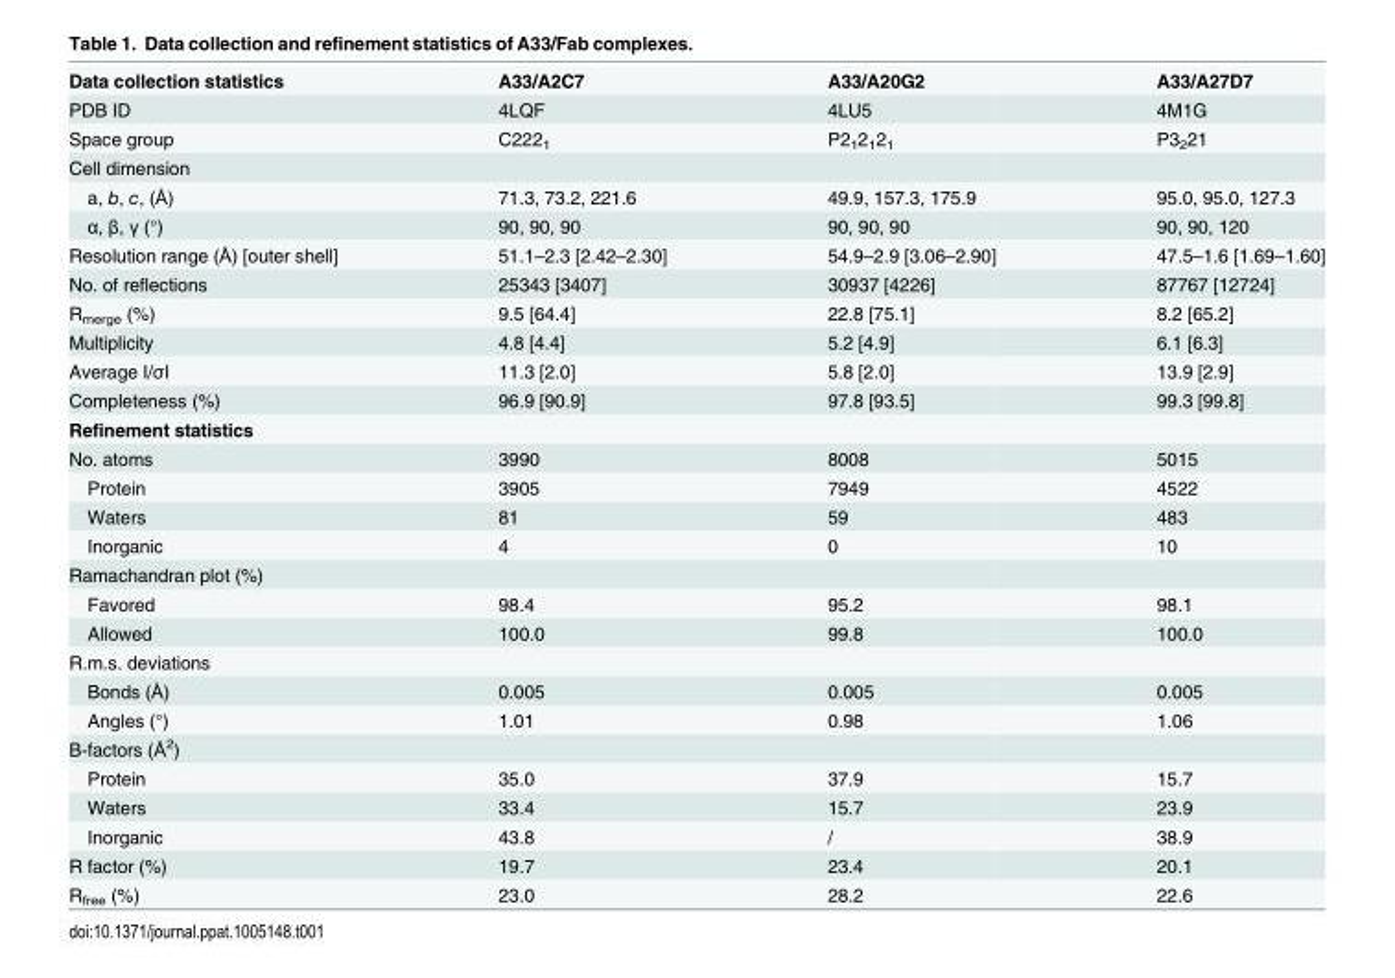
<table><tbody><tr><td>Data collection statistics</td><td>A33/A2C7</td><td>A33/A20G2</td><td>A33/A27D7</td></tr><tr><td>PDB ID</td><td>4LQF</td><td>4LU5</td><td>4M1G</td></tr><tr><td>Space group</td><td>C222<sub>1</sub></td><td>P2<sub>1</sub>2<sub>1</sub>2<sub>1</sub></td><td>P3<sub>2</sub>21</td></tr><tr><td colspan="4">Cell dimension</td></tr><tr><td>a, b, c, (Å)</td><td>71.3, 73.2, 221.6</td><td>49.9, 157.3, 175.9</td><td>95.0, 95.0, 127.3</td></tr><tr><td>α, β, γ (°)</td><td>90, 90, 90</td><td>90, 90, 90</td><td>90, 90, 120</td></tr><tr><td>Resolution range (Å) [outer shell]</td><td>51.1–2.3 [2.42–2.30]</td><td>54.9–2.9 [3.06–2.90]</td><td>47.5–1.6 [1.69–1.60]</td></tr><tr><td>No. of reflections</td><td>25343 [3407]</td><td>30937 [4226]</td><td>87767 [12724]</td></tr><tr><td>R<sub>merge</sub> (%)</td><td>9.5 [64.4]</td><td>22.8 [75.1]</td><td>8.2 [65.2]</td></tr><tr><td>Multiplicity</td><td>4.8 [4.4]</td><td>5.2 [4.9]</td><td>6.1 [6.3]</td></tr><tr><td>Average I/σI</td><td>11.3 [2.0]</td><td>5.8 [2.0]</td><td>13.9 [2.9]</td></tr><tr><td>Completeness (%)</td><td>96.9 [90.9]</td><td>97.8 [93.5]</td><td>99.3 [99.8]</td></tr><tr><td colspan="4">Refinement statistics</td></tr><tr><td>No. atoms</td><td>3990</td><td>8008</td><td>5015</td></tr><tr><td>Protein</td><td>3905</td><td>7949</td><td>4522</td></tr><tr><td>Waters</td><td>81</td><td>59</td><td>483</td></tr><tr><td>Inorganic</td><td>4</td><td>0</td><td>10</td></tr><tr><td colspan="4">Ramachandran plot (%)</td></tr><tr><td>Favored</td><td>98.4</td><td>95.2</td><td>98.1</td></tr><tr><td>Allowed</td><td>100.0</td><td>99.8</td><td>100.0</td></tr><tr><td colspan="4">R.m.s. deviations</td></tr><tr><td>Bonds (Å)</td><td>0.005</td><td>0.005</td><td>0.005</td></tr><tr><td>Angles (°)</td><td>1.01</td><td>0.98</td><td>1.06</td></tr><tr><td colspan="4">B-factors (Å<sup>2</sup>)</td></tr><tr><td>Protein</td><td>35.0</td><td>37.9</td><td>15.7</td></tr><tr><td>Waters</td><td>33.4</td><td>15.7</td><td>23.9</td></tr><tr><td>Inorganic</td><td>43.8</td><td>/</td><td>38.9</td></tr><tr><td>R factor (%)</td><td>19.7</td><td>23.4</td><td>20.1</td></tr><tr><td>R<sub>free</sub> (%)</td><td>23.0</td><td>28.2</td><td>22.6</td></tr></tbody></table>